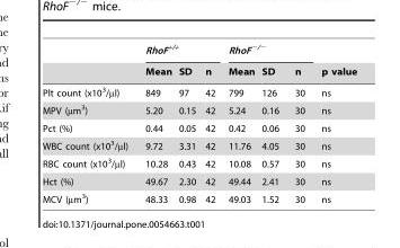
<table><thead><tr><td rowspan="2"></td><td colspan="3">RhoF<sup>+/+</sup></td><td colspan="3">RhoF<sup>−/−</sup></td><td rowspan="2">p value</td></tr><tr><td>Mean</td><td>SD</td><td>n</td><td>Mean</td><td>SD</td><td>n</td></tr></thead><tbody><tr><td>Plt count (x10<sup>3</sup>/µl)</td><td>849</td><td>97</td><td>42</td><td>799</td><td>126</td><td>30</td><td>ns</td></tr><tr><td>MPV (µm<sup>3</sup>)</td><td>5.20</td><td>0.15</td><td>42</td><td>5.24</td><td>0.16</td><td>30</td><td>ns</td></tr><tr><td>Pct (%)</td><td>0.44</td><td>0.05</td><td>42</td><td>0.42</td><td>0.06</td><td>30</td><td>ns</td></tr><tr><td>WBC count (x10<sup>3</sup>/µl)</td><td>9.72</td><td>3.31</td><td>42</td><td>11.76</td><td>4.05</td><td>30</td><td>ns</td></tr><tr><td>RBC count (x10<sup>3</sup>/µl)</td><td>10.28</td><td>0.43</td><td>42</td><td>10.08</td><td>0.57</td><td>30</td><td>ns</td></tr><tr><td>Hct (%)</td><td>49.67</td><td>2.30</td><td>42</td><td>49.44</td><td>2.41</td><td>30</td><td>ns</td></tr><tr><td>MCV (µm<sup>3</sup>)</td><td>48.33</td><td>0.98</td><td>42</td><td>49.03</td><td>1.52</td><td>30</td><td>ns</td></tr></tbody></table>